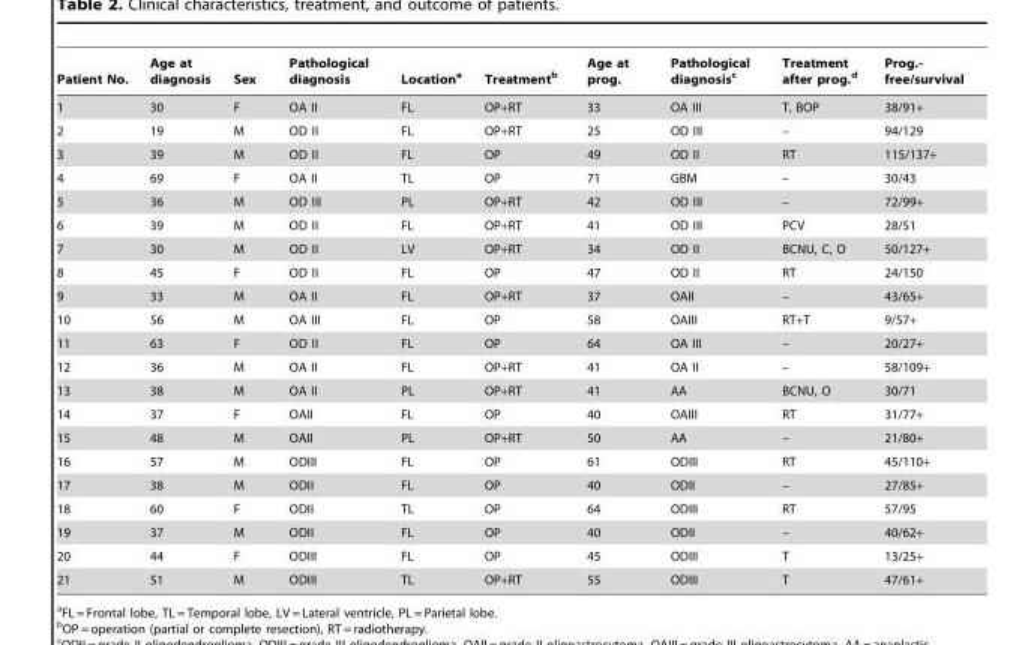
<table><thead><tr><td>Patient No.</td><td>Age at diagnosis</td><td>Sex</td><td>Pathological diagnosis</td><td>Location<sup>a</sup></td><td>Treatment<sup>b</sup></td><td>Age at prog.</td><td>Pathological diagnosis<sup>c</sup></td><td>Treatment after prog.<sup>d</sup></td><td>Prog.- free/survival</td></tr></thead><tbody><tr><td>1</td><td>30</td><td>F</td><td>OA II</td><td>FL</td><td>OP+RT</td><td>33</td><td>OA III</td><td>T, BOP</td><td>38/91+</td></tr><tr><td>2</td><td>19</td><td>M</td><td>OD II</td><td>FL</td><td>OP+RT</td><td>25</td><td>OD III</td><td>–</td><td>94/129</td></tr><tr><td>3</td><td>39</td><td>M</td><td>OD II</td><td>FL</td><td>OP</td><td>49</td><td>OD II</td><td>RT</td><td>115/137+</td></tr><tr><td>4</td><td>69</td><td>F</td><td>OA II</td><td>TL</td><td>OP</td><td>71</td><td>GBM</td><td>–</td><td>30/43</td></tr><tr><td>5</td><td>36</td><td>M</td><td>OD III</td><td>PL</td><td>OP+RT</td><td>42</td><td>OD III</td><td>–</td><td>72/99+</td></tr><tr><td>6</td><td>39</td><td>M</td><td>OD II</td><td>FL</td><td>OP+RT</td><td>41</td><td>OD III</td><td>PCV</td><td>28/51</td></tr><tr><td>7</td><td>30</td><td>M</td><td>OD II</td><td>LV</td><td>OP+RT</td><td>34</td><td>OD II</td><td>BCNU, C, O</td><td>50/127+</td></tr><tr><td>8</td><td>45</td><td>F</td><td>OD II</td><td>FL</td><td>OP</td><td>47</td><td>OD II</td><td>RT</td><td>24/150</td></tr><tr><td>9</td><td>33</td><td>M</td><td>OA II</td><td>FL</td><td>OP+RT</td><td>37</td><td>OAII</td><td>–</td><td>43/65+</td></tr><tr><td>10</td><td>56</td><td>M</td><td>OA III</td><td>FL</td><td>OP</td><td>58</td><td>OAIII</td><td>RT+T</td><td>9/57+</td></tr><tr><td>11</td><td>63</td><td>F</td><td>OD II</td><td>FL</td><td>OP</td><td>64</td><td>OA III</td><td>–</td><td>20/27+</td></tr><tr><td>12</td><td>36</td><td>M</td><td>OA II</td><td>FL</td><td>OP+RT</td><td>41</td><td>OA II</td><td>–</td><td>58/109+</td></tr><tr><td>13</td><td>38</td><td>M</td><td>OA II</td><td>PL</td><td>OP+RT</td><td>41</td><td>AA</td><td>BCNU, O</td><td>30/71</td></tr><tr><td>14</td><td>37</td><td>F</td><td>OAII</td><td>FL</td><td>OP</td><td>40</td><td>OAIII</td><td>RT</td><td>31/77+</td></tr><tr><td>15</td><td>48</td><td>M</td><td>OAII</td><td>PL</td><td>OP+RT</td><td>50</td><td>AA</td><td>–</td><td>21/80+</td></tr><tr><td>16</td><td>57</td><td>M</td><td>ODIII</td><td>FL</td><td>OP</td><td>61</td><td>ODIII</td><td>RT</td><td>45/110+</td></tr><tr><td>17</td><td>38</td><td>M</td><td>ODII</td><td>FL</td><td>OP</td><td>40</td><td>ODII</td><td>–</td><td>27/85+</td></tr><tr><td>18</td><td>60</td><td>F</td><td>ODII</td><td>TL</td><td>OP</td><td>64</td><td>ODIII</td><td>RT</td><td>57/95</td></tr><tr><td>19</td><td>37</td><td>M</td><td>ODII</td><td>FL</td><td>OP</td><td>40</td><td>ODII</td><td>–</td><td>40/62+</td></tr><tr><td>20</td><td>44</td><td>F</td><td>ODIII</td><td>FL</td><td>OP</td><td>45</td><td>ODIII</td><td>T</td><td>13/25+</td></tr><tr><td>21</td><td>51</td><td>M</td><td>ODIII</td><td>TL</td><td>OP+RT</td><td>55</td><td>ODIII</td><td>T</td><td>47/61+</td></tr></tbody></table>